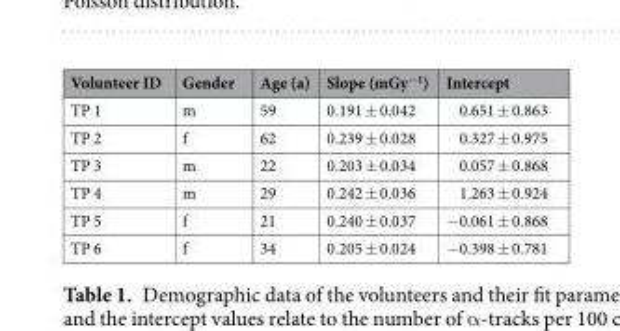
<table><thead><tr><td>Volunteer ID</td><td>Gender</td><td>Age (a)</td><td>Slope (mGy<sup>−1</sup>)</td><td>Intercept</td></tr></thead><tbody><tr><td>TP 1</td><td>m</td><td>59</td><td>0.191 ± 0.042</td><td>0.651 ± 0.863</td></tr><tr><td>TP 2</td><td>f</td><td>62</td><td>0.239 ± 0.028</td><td>0.327 ± 0.975</td></tr><tr><td>TP 3</td><td>m</td><td>22</td><td>0.203 ± 0.034</td><td>0.057 ± 0.868</td></tr><tr><td>TP 4</td><td>m</td><td>29</td><td>0.242 ± 0.036</td><td>1.263 ± 0.924</td></tr><tr><td>TP 5</td><td>f</td><td>21</td><td>0.240 ± 0.037</td><td>−0.061 ± 0.868</td></tr><tr><td>TP 6</td><td>f</td><td>34</td><td>0.205 ± 0.024</td><td>−0.398 ± 0.781</td></tr></tbody></table>